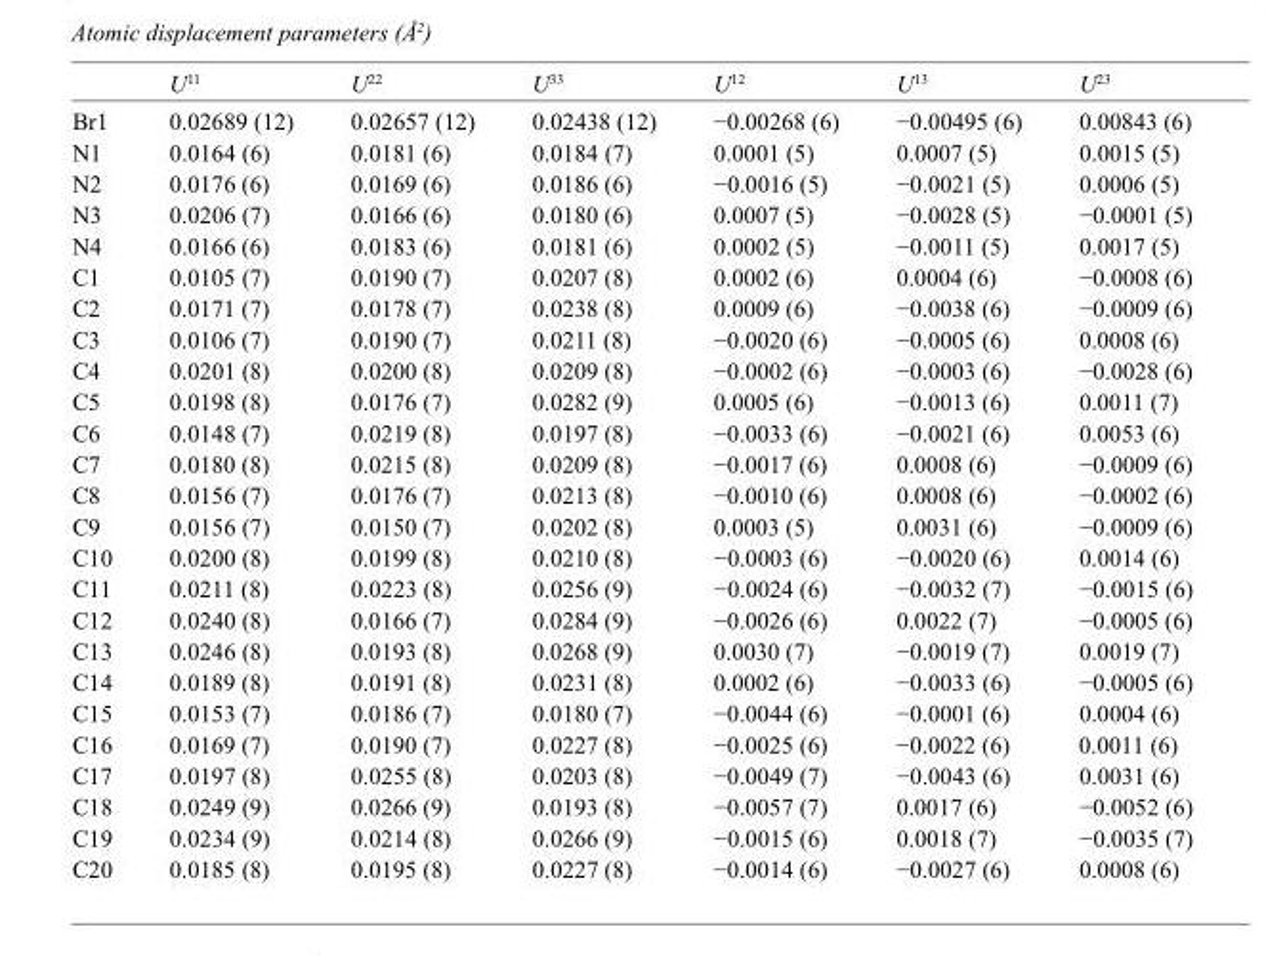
<table><thead><tr><td></td><td>U<sup>11</sup></td><td>U<sup>22</sup></td><td>U<sup>33</sup></td><td>U<sup>12</sup></td><td>U<sup>13</sup></td><td>U<sup>23</sup></td></tr></thead><tbody><tr><td>Br1</td><td>0.02689 (12)</td><td>0.02657 (12)</td><td>0.02438 (12)</td><td>−0.00268 (6)</td><td>−0.00495 (6)</td><td>0.00843 (6)</td></tr><tr><td>N1</td><td>0.0164 (6)</td><td>0.0181 (6)</td><td>0.0184 (7)</td><td>0.0001 (5)</td><td>0.0007 (5)</td><td>0.0015 (5)</td></tr><tr><td>N2</td><td>0.0176 (6)</td><td>0.0169 (6)</td><td>0.0186 (6)</td><td>−0.0016 (5)</td><td>−0.0021 (5)</td><td>0.0006 (5)</td></tr><tr><td>N3</td><td>0.0206 (7)</td><td>0.0166 (6)</td><td>0.0180 (6)</td><td>0.0007 (5)</td><td>−0.0028 (5)</td><td>−0.0001 (5)</td></tr><tr><td>N4</td><td>0.0166 (6)</td><td>0.0183 (6)</td><td>0.0181 (6)</td><td>0.0002 (5)</td><td>−0.0011 (5)</td><td>0.0017 (5)</td></tr><tr><td>C1</td><td>0.0105 (7)</td><td>0.0190 (7)</td><td>0.0207 (8)</td><td>0.0002 (6)</td><td>0.0004 (6)</td><td>−0.0008 (6)</td></tr><tr><td>C2</td><td>0.0171 (7)</td><td>0.0178 (7)</td><td>0.0238 (8)</td><td>0.0009 (6)</td><td>−0.0038 (6)</td><td>−0.0009 (6)</td></tr><tr><td>C3</td><td>0.0106 (7)</td><td>0.0190 (7)</td><td>0.0211 (8)</td><td>−0.0020 (6)</td><td>−0.0005 (6)</td><td>0.0008 (6)</td></tr><tr><td>C4</td><td>0.0201 (8)</td><td>0.0200 (8)</td><td>0.0209 (8)</td><td>−0.0002 (6)</td><td>−0.0003 (6)</td><td>−0.0028 (6)</td></tr><tr><td>C5</td><td>0.0198 (8)</td><td>0.0176 (7)</td><td>0.0282 (9)</td><td>0.0005 (6)</td><td>−0.0013 (6)</td><td>0.0011 (7)</td></tr><tr><td>C6</td><td>0.0148 (7)</td><td>0.0219 (8)</td><td>0.0197 (8)</td><td>−0.0033 (6)</td><td>−0.0021 (6)</td><td>0.0053 (6)</td></tr><tr><td>C7</td><td>0.0180 (8)</td><td>0.0215 (8)</td><td>0.0209 (8)</td><td>−0.0017 (6)</td><td>0.0008 (6)</td><td>−0.0009 (6)</td></tr><tr><td>C8</td><td>0.0156 (7)</td><td>0.0176 (7)</td><td>0.0213 (8)</td><td>−0.0010 (6)</td><td>0.0008 (6)</td><td>−0.0002 (6)</td></tr><tr><td>C9</td><td>0.0156 (7)</td><td>0.0150 (7)</td><td>0.0202 (8)</td><td>0.0003 (5)</td><td>0.0031 (6)</td><td>−0.0009 (6)</td></tr><tr><td>C10</td><td>0.0200 (8)</td><td>0.0199 (8)</td><td>0.0210 (8)</td><td>−0.0003 (6)</td><td>−0.0020 (6)</td><td>0.0014 (6)</td></tr><tr><td>C11</td><td>0.0211 (8)</td><td>0.0223 (8)</td><td>0.0256 (9)</td><td>−0.0024 (6)</td><td>−0.0032 (7)</td><td>−0.0015 (6)</td></tr><tr><td>C12</td><td>0.0240 (8)</td><td>0.0166 (7)</td><td>0.0284 (9)</td><td>−0.0026 (6)</td><td>0.0022 (7)</td><td>−0.0005 (6)</td></tr><tr><td>C13</td><td>0.0246 (8)</td><td>0.0193 (8)</td><td>0.0268 (9)</td><td>0.0030 (7)</td><td>−0.0019 (7)</td><td>0.0019 (7)</td></tr><tr><td>C14</td><td>0.0189 (8)</td><td>0.0191 (8)</td><td>0.0231 (8)</td><td>0.0002 (6)</td><td>−0.0033 (6)</td><td>−0.0005 (6)</td></tr><tr><td>C15</td><td>0.0153 (7)</td><td>0.0186 (7)</td><td>0.0180 (7)</td><td>−0.0044 (6)</td><td>−0.0001 (6)</td><td>0.0004 (6)</td></tr><tr><td>C16</td><td>0.0169 (7)</td><td>0.0190 (7)</td><td>0.0227 (8)</td><td>−0.0025 (6)</td><td>−0.0022 (6)</td><td>0.0011 (6)</td></tr><tr><td>C17</td><td>0.0197 (8)</td><td>0.0255 (8)</td><td>0.0203 (8)</td><td>−0.0049 (7)</td><td>−0.0043 (6)</td><td>0.0031 (6)</td></tr><tr><td>C18</td><td>0.0249 (9)</td><td>0.0266 (9)</td><td>0.0193 (8)</td><td>−0.0057 (7)</td><td>0.0017 (6)</td><td>−0.0052 (6)</td></tr><tr><td>C19</td><td>0.0234 (9)</td><td>0.0214 (8)</td><td>0.0266 (9)</td><td>−0.0015 (6)</td><td>0.0018 (7)</td><td>−0.0035 (7)</td></tr><tr><td>C20</td><td>0.0185 (8)</td><td>0.0195 (8)</td><td>0.0227 (8)</td><td>−0.0014 (6)</td><td>−0.0027 (6)</td><td>0.0008 (6)</td></tr></tbody></table>